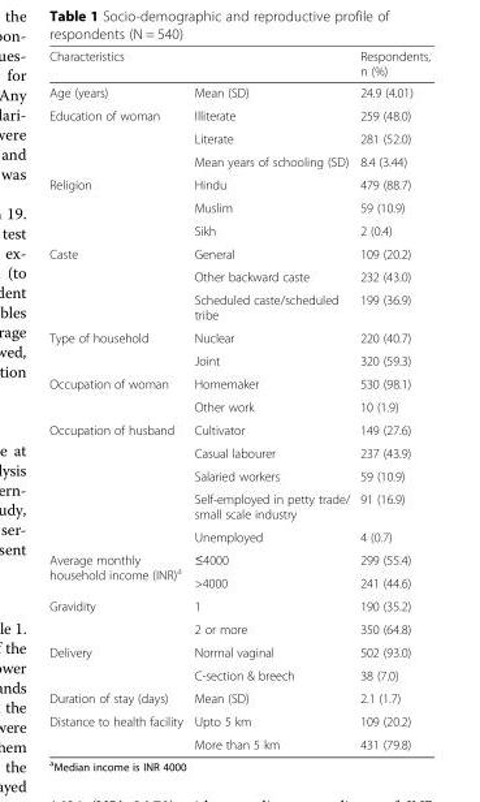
<table><thead><tr><td colspan="2">Characteristics</td><td rowspan="2">Respondents, n (%) 24.9 (4.01)</td></tr><tr><td>Age (years)</td><td>Mean (SD)</td></tr></thead><tbody><tr><td rowspan="3">Education of woman</td><td>Illiterate</td><td>259 (48.0)</td></tr><tr><td>Literate</td><td>281 (52.0)</td></tr><tr><td>Mean years of schooling (SD)</td><td>8.4 (3.44)</td></tr><tr><td rowspan="3">Religion</td><td>Hindu</td><td>479 (88.7)</td></tr><tr><td>Muslim</td><td>59 (10.9)</td></tr><tr><td>Sikh</td><td>2 (0.4)</td></tr><tr><td rowspan="3">Caste</td><td>General</td><td>109 (20.2)</td></tr><tr><td>Other backward caste</td><td>232 (43.0)</td></tr><tr><td>Scheduled caste/scheduled tribe</td><td>199 (36.9)</td></tr><tr><td rowspan="2">Type of household</td><td>Nuclear</td><td>220 (40.7)</td></tr><tr><td>Joint</td><td>320 (59.3)</td></tr><tr><td rowspan="2">Occupation of woman</td><td>Homemaker</td><td>530 (98.1)</td></tr><tr><td>Other work</td><td>10 (1.9)</td></tr><tr><td rowspan="5">Occupation of husband</td><td>Cultivator</td><td>149 (27.6)</td></tr><tr><td>Casual labourer</td><td>237 (43.9)</td></tr><tr><td>Salaried workers</td><td>59 (10.9)</td></tr><tr><td>Self-employed in petty trade/ small scale industry</td><td>91 (16.9)</td></tr><tr><td>Unemployed</td><td>4 (0.7)</td></tr><tr><td rowspan="2">Average monthly household income (INR)<sup>a</sup></td><td>≤4000</td><td>299 (55.4)</td></tr><tr><td>&gt;4000</td><td>241 (44.6)</td></tr><tr><td rowspan="2">Gravidity</td><td>1</td><td>190 (35.2)</td></tr><tr><td>2 or more</td><td>350 (64.8)</td></tr><tr><td rowspan="2">Delivery</td><td>Normal vaginal</td><td>502 (93.0)</td></tr><tr><td>C-section &amp; breech</td><td>38 (7.0)</td></tr><tr><td>Duration of stay (days)</td><td>Mean (SD)</td><td>2.1 (1.7)</td></tr><tr><td rowspan="2">Distance to health facility</td><td>Upto 5 km</td><td>109 (20.2)</td></tr><tr><td>More than 5 km</td><td>431 (79.8)</td></tr></tbody></table>